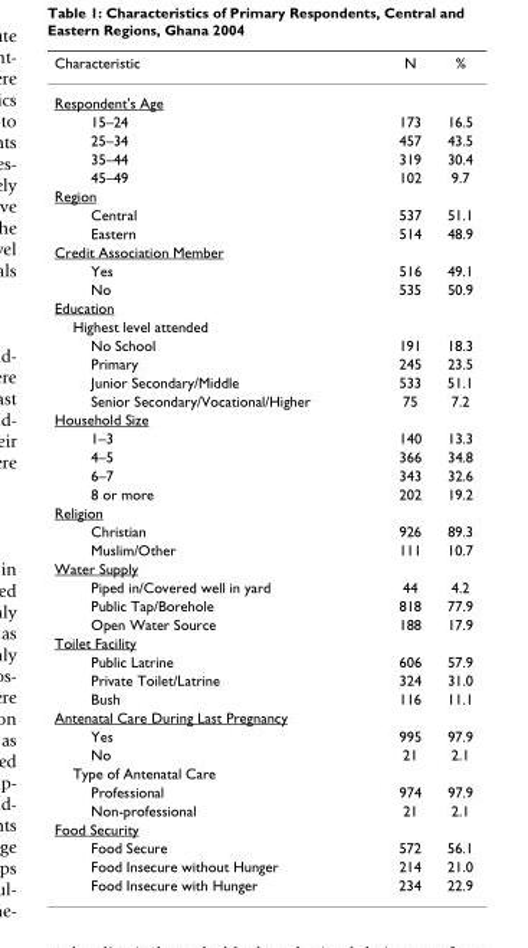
<table><thead><tr><td>Characteristic</td><td>N</td><td>%</td></tr></thead><tbody><tr><td colspan="3">Respondent&#x27;s Age</td></tr><tr><td>15–24</td><td>173</td><td>16.5</td></tr><tr><td>25–34</td><td>457</td><td>43.5</td></tr><tr><td>35–44</td><td>319</td><td>30.4</td></tr><tr><td>45–49</td><td>102</td><td>9.7</td></tr><tr><td colspan="3">Region</td></tr><tr><td>Central</td><td>537</td><td>51.1</td></tr><tr><td>Eastern</td><td>514</td><td>48.9</td></tr><tr><td colspan="3">Credit Association Member</td></tr><tr><td>Yes</td><td>516</td><td>49.1</td></tr><tr><td>No</td><td>535</td><td>50.9</td></tr><tr><td colspan="3">Education</td></tr><tr><td colspan="3">Highest level attended</td></tr><tr><td>No School</td><td>191</td><td>18.3</td></tr><tr><td>Primary</td><td>245</td><td>23.5</td></tr><tr><td>Junior Secondary/Middle</td><td>533</td><td>51.1</td></tr><tr><td>Senior Secondary/Vocational/Higher</td><td>75</td><td>7.2</td></tr><tr><td colspan="3">Household Size</td></tr><tr><td>1–3</td><td>140</td><td>13.3</td></tr><tr><td>4–5</td><td>366</td><td>34.8</td></tr><tr><td>6–7</td><td>343</td><td>32.6</td></tr><tr><td>8 or more</td><td>202</td><td>19.2</td></tr><tr><td colspan="3">Religion</td></tr><tr><td>Christian</td><td>926</td><td>89.3</td></tr><tr><td>Muslim/Other</td><td>111</td><td>10.7</td></tr><tr><td colspan="3">Water Supply</td></tr><tr><td>Piped in/Covered well in yard</td><td>44</td><td>4.2</td></tr><tr><td>Public Tap/Borehole</td><td>818</td><td>77.9</td></tr><tr><td>Open Water Source</td><td>188</td><td>17.9</td></tr><tr><td colspan="3">Toilet Facility</td></tr><tr><td>Public Latrine</td><td>606</td><td>57.9</td></tr><tr><td>Private Toilet/Latrine</td><td>324</td><td>31.0</td></tr><tr><td>Bush</td><td>116</td><td>11.1</td></tr><tr><td colspan="3">Antenatal Care During Last Pregnancy</td></tr><tr><td>Yes</td><td>995</td><td>97.9</td></tr><tr><td>No</td><td>21</td><td>2.1</td></tr><tr><td colspan="3">Type of Antenatal Care</td></tr><tr><td>Professional</td><td>974</td><td>97.9</td></tr><tr><td>Non-professional</td><td>21</td><td>2.1</td></tr><tr><td colspan="3">Food Security</td></tr><tr><td>Food Secure</td><td>572</td><td>56.1</td></tr><tr><td>Food Insecure without Hunger</td><td>214</td><td>21.0</td></tr><tr><td>Food Insecure with Hunger</td><td>234</td><td>22.9</td></tr></tbody></table>